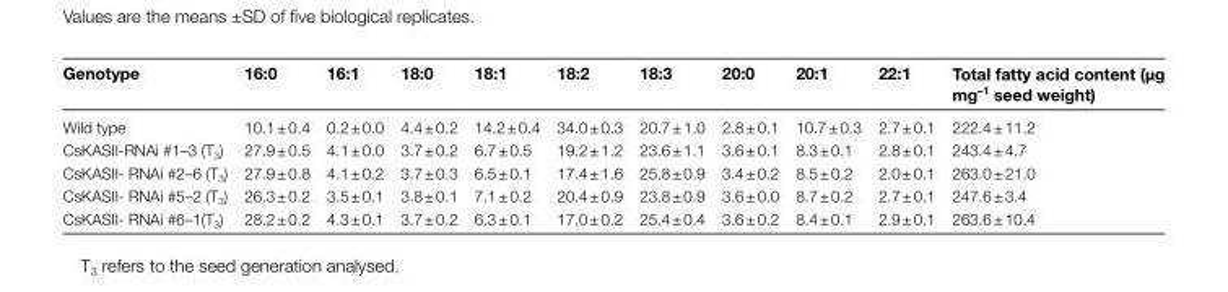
<table><thead><tr><td>Genotype</td><td>16:0</td><td>16:1</td><td>18:0</td><td>18:1</td><td>18:2</td><td>18:3</td><td>20:0</td><td>20:1</td><td>22:1</td><td>Total fatty acid content (μg mg<sup>–1</sup> seed weight)</td></tr></thead><tbody><tr><td>Wild type</td><td>10.1 ± 0.4</td><td>0.2 ± 0.0</td><td>4.4 ± 0.2</td><td>14.2 ± 0.4</td><td>34.0 ± 0.3</td><td>20.7 ± 1.0</td><td>2.8 ± 0.1</td><td>10.7 ± 0.3</td><td>2.7 ± 0.1</td><td>222.4 ± 11.2</td></tr><tr><td>CsKASII-RNAi #1–3 (T<sub>3</sub>)</td><td>27.9 ± 0.5</td><td>4.1 ± 0.0</td><td>3.7 ± 0.2</td><td>6.7 ± 0.5</td><td>19.2 ± 1.2</td><td>23.6 ± 1.1</td><td>3.6 ± 0.1</td><td>8.3 ± 0.1</td><td>2.8 ± 0.1</td><td>243.4 ± 4.7</td></tr><tr><td>CsKASII- RNAi #2–6 (T<sub>3</sub>)</td><td>27.9 ± 0.8</td><td>4.1 ± 0.2</td><td>3.7 ± 0.3</td><td>6.5 ± 0.1</td><td>17.4 ± 1.6</td><td>25.8 ± 0.9</td><td>3.4 ± 0.2</td><td>8.5 ± 0.2</td><td>2.0 ± 0.1</td><td>263.0 ± 21.0</td></tr><tr><td>CsKASII- RNAi #5–2 (T<sub>3</sub>)</td><td>26.3 ± 0.2</td><td>3.5 ± 0.1</td><td>3.8 ± 0.1</td><td>7.1 ± 0.2</td><td>20.4 ± 0.9</td><td>23.8 ± 0.9</td><td>3.6 ± 0.0</td><td>8.7 ± 0.2</td><td>2.7 ± 0.1</td><td>247.6 ± 3.4</td></tr><tr><td>CsKASII- RNAi #6–1(T<sub>3</sub>)</td><td>28.2 ± 0.2</td><td>4.3 ± 0.1</td><td>3.7 ± 0.2</td><td>6.3 ± 0.1</td><td>17.0 ± 0.2</td><td>25.4 ± 0.4</td><td>3.6 ± 0.2</td><td>8.4 ± 0.1</td><td>2.9 ± 0.1</td><td>263.6 ± 10.4</td></tr></tbody></table>